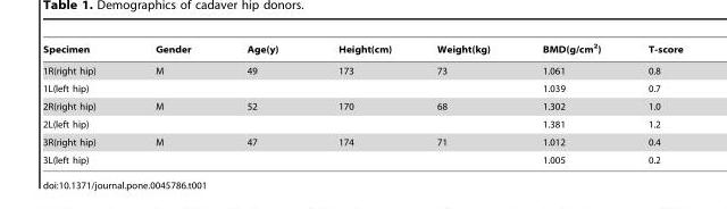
<table><thead><tr><td>Specimen</td><td>Gender</td><td>Age(y)</td><td>Height(cm)</td><td>Weight(kg)</td><td>BMD(g/cm<sup>2</sup>)</td><td>T-score</td></tr></thead><tbody><tr><td>1R(right hip)</td><td>M</td><td>49</td><td>173</td><td>73</td><td>1.061</td><td>0.8</td></tr><tr><td>1L(left hip)</td><td></td><td></td><td></td><td></td><td>1.039</td><td>0.7</td></tr><tr><td>2R(right hip)</td><td>M</td><td>52</td><td>170</td><td>68</td><td>1.302</td><td>1.0</td></tr><tr><td>2L(left hip)</td><td></td><td></td><td></td><td></td><td>1.381</td><td>1.2</td></tr><tr><td>3R(right hip)</td><td>M</td><td>47</td><td>174</td><td>71</td><td>1.012</td><td>0.4</td></tr><tr><td>3L(left hip)</td><td></td><td></td><td></td><td></td><td>1.005</td><td>0.2</td></tr></tbody></table>